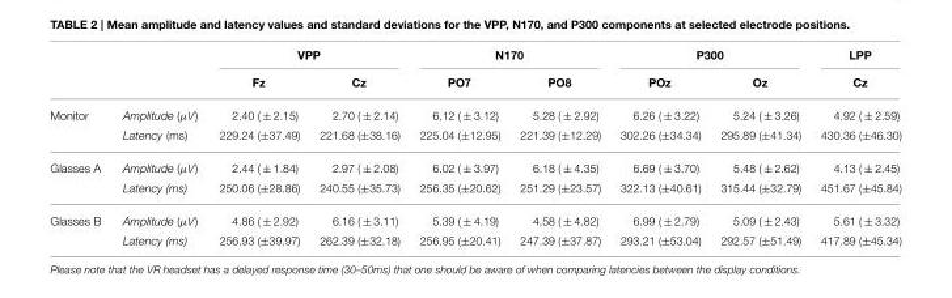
<table><thead><tr><td rowspan="2"></td><td rowspan="2"></td><td colspan="2">VPP</td><td colspan="2">N170</td><td colspan="2">P300</td><td rowspan="2">LPP Cz</td></tr><tr><td>Fz</td><td>Cz</td><td>PO7</td><td>PO8</td><td>POz</td><td>Oz</td></tr></thead><tbody><tr><td rowspan="2">Monitor</td><td>Amplitude (µV)</td><td>2.40 ( ± 2.15)</td><td>2.70 ( ± 2.14)</td><td>6.12 ( ± 3.12)</td><td>5.28 ( ± 2.92)</td><td>6.26 ( ± 3.22)</td><td>5.24 ( ± 3.26)</td><td>4.92 ( ± 2.59)</td></tr><tr><td>Latency (ms)</td><td>229.24 (±37.49)</td><td>221.68 (±38.16)</td><td>225.04 (±12.95)</td><td>221.39 (±12.29)</td><td>302.26 (±34.34)</td><td>295.89 (±41.34)</td><td>430.36 (±46.30)</td></tr><tr><td rowspan="2">Glasses A</td><td>Amplitude (µV)</td><td>2.44 ( ± 1.84)</td><td>2.97 ( ± 2.08)</td><td>6.02 ( ± 3.97)</td><td>6.18 ( ± 4.35)</td><td>6.69 ( ± 3.70)</td><td>5.48 ( ± 2.62)</td><td>4.13 ( ± 2.45)</td></tr><tr><td>Latency (ms)</td><td>250.06 (±28.86)</td><td>240.55 (±35.73)</td><td>256.35 (±20.62)</td><td>251.29 (±23.57)</td><td>322.13 (±40.61)</td><td>315.44 (±32.79)</td><td>451.67 (±45.84)</td></tr><tr><td rowspan="2">Glasses B</td><td>Amplitude (µV)</td><td>4.86 ( ± 2.92)</td><td>6.16 ( ± 3.11)</td><td>5.39 ( ± 4.19)</td><td>4.58 ( ± 4.82)</td><td>6.99 ( ± 2.79)</td><td>5.09 ( ± 2.43)</td><td>5.61 ( ± 3.32)</td></tr><tr><td>Latency (ms)</td><td>256.93 (±39.97)</td><td>262.39 (±32.18)</td><td>256.95 (±20.41)</td><td>247.39 (±37.87)</td><td>293.21 (±53.04)</td><td>292.57 (±51.49)</td><td>417.89 (±45.34)</td></tr></tbody></table>